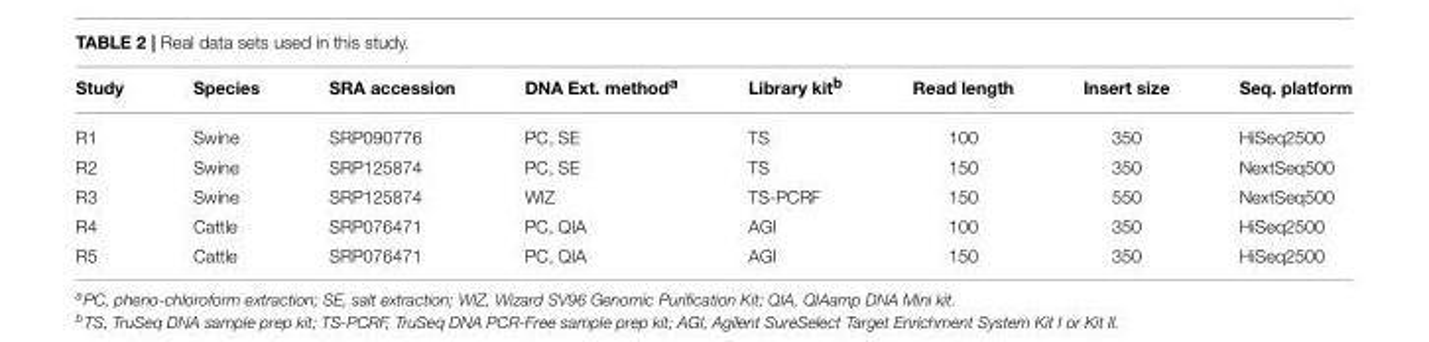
<table><thead><tr><td>Study</td><td>Species</td><td>SRA accession</td><td>DNA Ext. method<sup>a</sup></td><td>Library kit<sup>b</sup></td><td>Read length</td><td>Insert size</td><td>Seq. platform</td></tr></thead><tbody><tr><td>R1</td><td>Swine</td><td>SRP090776</td><td>PC, SE</td><td>TS</td><td>100</td><td>350</td><td>HiSeq2500</td></tr><tr><td>R2</td><td>Swine</td><td>SRP125874</td><td>PC, SE</td><td>TS</td><td>150</td><td>350</td><td>NextSeq500</td></tr><tr><td>R3</td><td>Swine</td><td>SRP125874</td><td>WIZ</td><td>TS-PCRF</td><td>150</td><td>550</td><td>NextSeq500</td></tr><tr><td>R4</td><td>Cattle</td><td>SRP076471</td><td>PC, QIA</td><td>AGI</td><td>100</td><td>350</td><td>HiSeq2500</td></tr><tr><td>R5</td><td>Cattle</td><td>SRP076471</td><td>PC, QIA</td><td>AGI</td><td>150</td><td>350</td><td>HiSeq2500</td></tr></tbody></table>